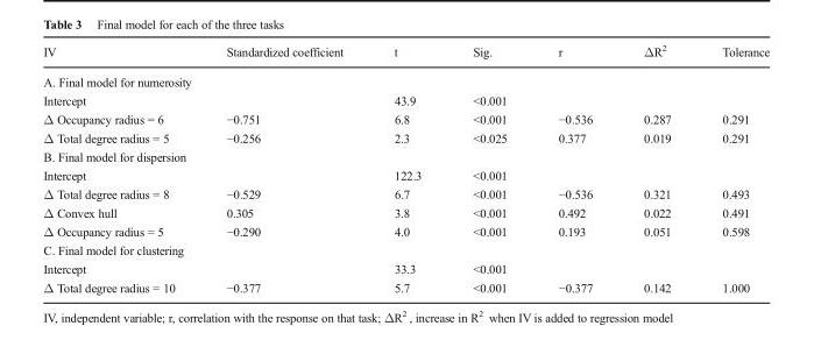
<table><thead><tr><td>IV</td><td>Standardized coefficient</td><td>t</td><td>Sig.</td><td>r</td><td>ΔR<sup>2</sup></td><td>Tolerance</td></tr></thead><tbody><tr><td colspan="7">A. Final model for numerosity</td></tr><tr><td>Intercept</td><td></td><td>43.9</td><td>&lt;0.001</td><td></td><td></td><td></td></tr><tr><td>Δ Occupancy radius = 6</td><td>−0.751</td><td>6.8</td><td>&lt;0.001</td><td>−0.536</td><td>0.287</td><td>0.291</td></tr><tr><td>Δ Total degree radius = 5</td><td>−0.256</td><td>2.3</td><td>&lt;0.025</td><td>0.377</td><td>0.019</td><td>0.291</td></tr><tr><td colspan="7">B. Final model for dispersion</td></tr><tr><td>Intercept</td><td></td><td>122.3</td><td>&lt;0.001</td><td></td><td></td><td></td></tr><tr><td>Δ Total degree radius = 8</td><td>−0.529</td><td>6.7</td><td>&lt;0.001</td><td>−0.536</td><td>0.321</td><td>0.493</td></tr><tr><td>Δ Convex hull</td><td>0.305</td><td>3.8</td><td>&lt;0.001</td><td>0.492</td><td>0.022</td><td>0.491</td></tr><tr><td>Δ Occupancy radius = 5</td><td>−0.290</td><td>4.0</td><td>&lt;0.001</td><td>0.193</td><td>0.051</td><td>0.598</td></tr><tr><td colspan="7">C. Final model for clustering</td></tr><tr><td>Intercept</td><td></td><td>33.3</td><td>&lt;0.001</td><td></td><td></td><td></td></tr><tr><td>Δ Total degree radius = 10</td><td>−0.377</td><td>5.7</td><td>&lt;0.001</td><td>−0.377</td><td>0.142</td><td>1.000</td></tr></tbody></table>